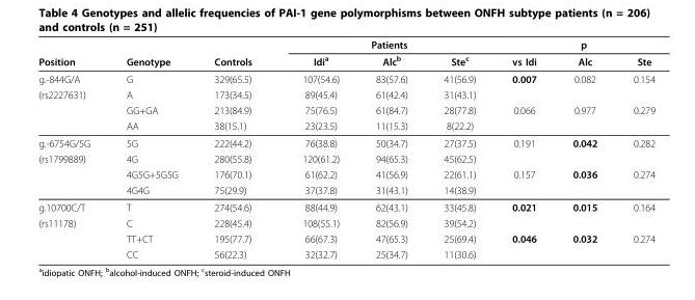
<table><thead><tr><td rowspan="2">Position</td><td rowspan="2">Genotype</td><td rowspan="2">Controls</td><td colspan="3">Patients</td><td colspan="3">p</td></tr><tr><td>Idi<sup>a</sup></td><td>Alc<sup>b</sup></td><td>Ste<sup>c</sup></td><td>vs Idi</td><td>Alc</td><td>Ste</td></tr></thead><tbody><tr><td>g.-844G/A</td><td>G</td><td>329(65.5)</td><td>107(54.6)</td><td>83(57.6)</td><td>41(56.9)</td><td>0.007</td><td>0.082</td><td>0.154</td></tr><tr><td rowspan="3">(rs2227631)</td><td>A</td><td>173(34.5)</td><td>89(45.4)</td><td>61(42.4)</td><td>31(43.1)</td><td></td><td></td><td></td></tr><tr><td>GG+GA</td><td>213(84.9)</td><td>75(76.5)</td><td>61(84.7)</td><td>28(77.8)</td><td>0.066</td><td>0.977</td><td>0.279</td></tr><tr><td>AA</td><td>38(15.1)</td><td>23(23.5)</td><td>11(15.3)</td><td>8(22.2)</td><td></td><td></td><td></td></tr><tr><td>g.-6754G/5G</td><td>5G</td><td>222(44.2)</td><td>76(38.8)</td><td>50(34.7)</td><td>27(37.5)</td><td>0.191</td><td>0.042</td><td>0.282</td></tr><tr><td rowspan="3">(rs1799889)</td><td>4G</td><td>280(55.8)</td><td>120(61.2)</td><td>94(65.3)</td><td>45(62.5)</td><td></td><td></td><td></td></tr><tr><td>4G5G+5G5G</td><td>176(70.1)</td><td>61(62.2)</td><td>41(56.9)</td><td>22(61.1)</td><td>0.157</td><td>0.036</td><td>0.274</td></tr><tr><td>4G4G</td><td>75(29.9)</td><td>37(37.8)</td><td>31(43.1)</td><td>14(38.9)</td><td></td><td></td><td></td></tr><tr><td>g.10700C/T</td><td>T</td><td>274(54.6)</td><td>88(44.9)</td><td>62(43.1)</td><td>33(45.8)</td><td>0.021</td><td>0.015</td><td>0.164</td></tr><tr><td rowspan="3">(rs11178)</td><td>C</td><td>228(45.4)</td><td>108(55.1)</td><td>82(56.9)</td><td>39(54.2)</td><td></td><td></td><td></td></tr><tr><td>TT+CT</td><td>195(77.7)</td><td>66(67.3)</td><td>47(65.3)</td><td>25(69.4)</td><td>0.046</td><td>0.032</td><td>0.274</td></tr><tr><td>CC</td><td>56(22.3)</td><td>32(32.7)</td><td>25(34.7)</td><td>11(30.6)</td><td></td><td></td><td></td></tr></tbody></table>